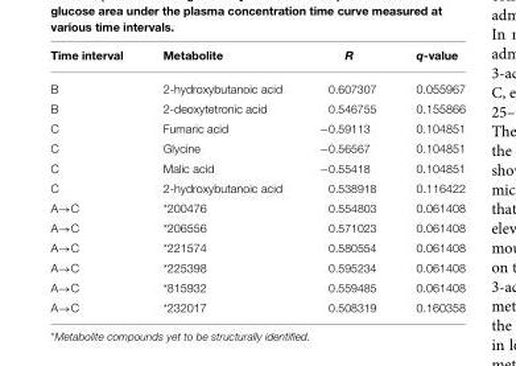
<table><thead><tr><td>Time interval</td><td>Metabolite</td><td>R</td><td>q-value</td></tr></thead><tbody><tr><td>B</td><td>2-hydroxybutanoic acid</td><td>0.607307</td><td>0.055967</td></tr><tr><td>B</td><td>2-deoxytetronic acid</td><td>0.546755</td><td>0.155866</td></tr><tr><td>C</td><td>Fumaric acid</td><td>−0.59113</td><td>0.104851</td></tr><tr><td>C</td><td>Glycine</td><td>−0.56567</td><td>0.104851</td></tr><tr><td>C</td><td>Malic acid</td><td>−0.55418</td><td>0.104851</td></tr><tr><td>C</td><td>2-hydroxybutanoic acid</td><td>0.538918</td><td>0.116422</td></tr><tr><td>A→C</td><td>*200476</td><td>0.554803</td><td>0.061408</td></tr><tr><td>A→C</td><td>*206556</td><td>0.571023</td><td>0.061408</td></tr><tr><td>A→C</td><td>*221574</td><td>0.580554</td><td>0.061408</td></tr><tr><td>A→C</td><td>*225398</td><td>0.595234</td><td>0.061408</td></tr><tr><td>A→C</td><td>*815932</td><td>0.559485</td><td>0.061408</td></tr><tr><td>A→C</td><td>*232017</td><td>0.508319</td><td>0.160358</td></tr></tbody></table>